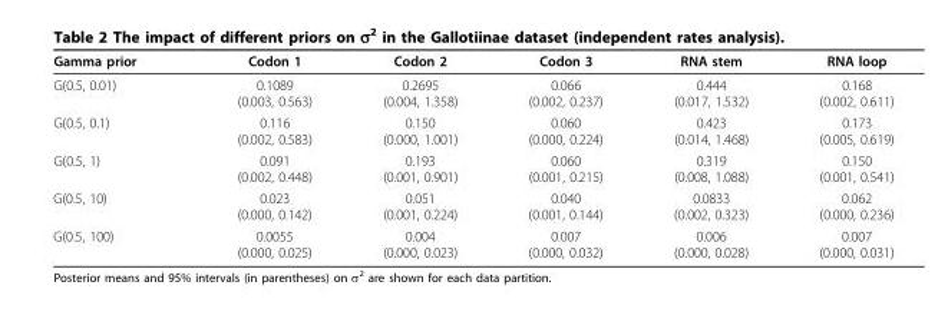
<table><thead><tr><td>Gamma prior</td><td>Codon 1</td><td>Codon 2</td><td>Codon 3</td><td>RNA stem</td><td>RNA loop</td></tr></thead><tbody><tr><td>G(0.5, 0.01)</td><td>0.1089 (0.003, 0.563)</td><td>0.2695 (0.004, 1.358)</td><td>0.066 (0.002, 0.237)</td><td>0.444 (0.017, 1.532)</td><td>0.168 (0.002, 0.611)</td></tr><tr><td>G(0.5, 0.1)</td><td>0.116 (0.002, 0.583)</td><td>0.150 (0.000, 1.001)</td><td>0.060 (0.000, 0.224)</td><td>0.423 (0.014, 1.468)</td><td>0.173 (0.005, 0.619)</td></tr><tr><td>G(0.5, 1)</td><td>0.091 (0.002, 0.448)</td><td>0.193 (0.001, 0.901)</td><td>0.060 (0.001, 0.215)</td><td>0.319 (0.008, 1.088)</td><td>0.150 (0.001, 0.541)</td></tr><tr><td>G(0.5, 10)</td><td>0.023 (0.000, 0.142)</td><td>0.051 (0.001, 0.224)</td><td>0.040 (0.001, 0.144)</td><td>0.0833 (0.002, 0.323)</td><td>0.062 (0.000, 0.236)</td></tr><tr><td>G(0.5, 100)</td><td>0.0055 (0.000, 0.025)</td><td>0.004 (0.000, 0.023)</td><td>0.007 (0.000, 0.032)</td><td>0.006 (0.000, 0.028)</td><td>0.007 (0.000, 0.031)</td></tr></tbody></table>